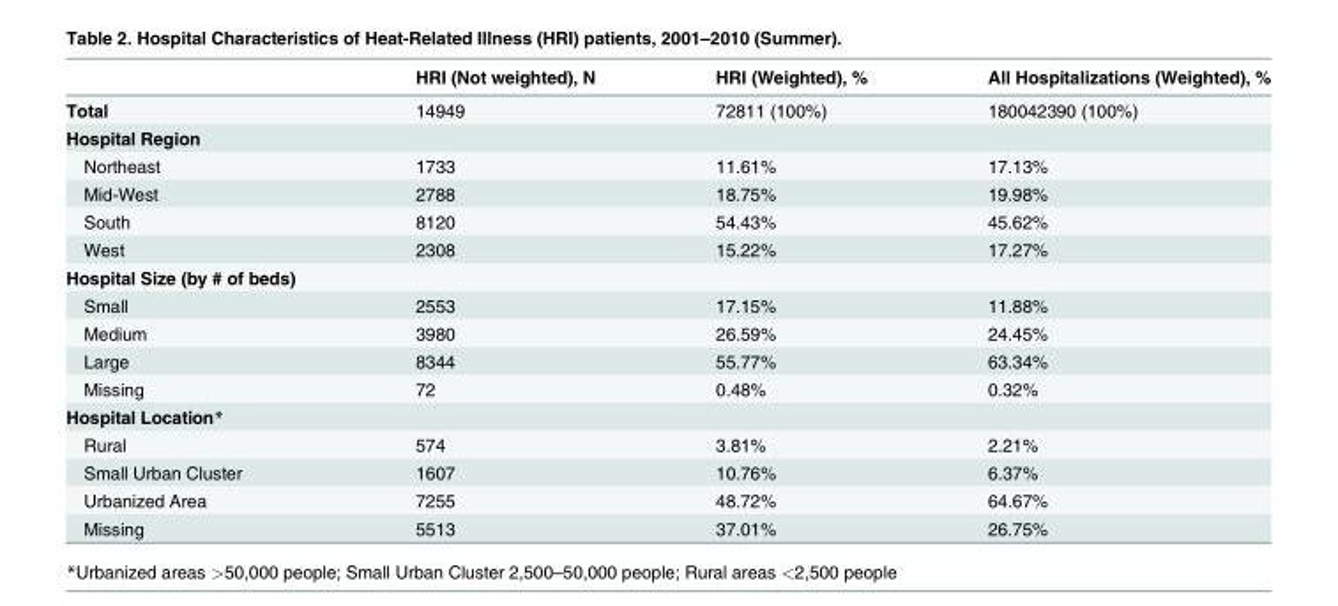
<table><thead><tr><td></td><td>HRI (Not weighted), N</td><td>HRI (Weighted), %</td><td>All Hospitalizations (Weighted), %</td></tr></thead><tbody><tr><td>Total</td><td>14949</td><td>72811 (100%)</td><td>180042390 (100%)</td></tr><tr><td colspan="4">Hospital Region</td></tr><tr><td>Northeast</td><td>1733</td><td>11.61%</td><td>17.13%</td></tr><tr><td>Mid-West</td><td>2788</td><td>18.75%</td><td>19.98%</td></tr><tr><td>South</td><td>8120</td><td>54.43%</td><td>45.62%</td></tr><tr><td>West</td><td>2308</td><td>15.22%</td><td>17.27%</td></tr><tr><td colspan="4">Hospital Size (by # of beds)</td></tr><tr><td>Small</td><td>2553</td><td>17.15%</td><td>11.88%</td></tr><tr><td>Medium</td><td>3980</td><td>26.59%</td><td>24.45%</td></tr><tr><td>Large</td><td>8344</td><td>55.77%</td><td>63.34%</td></tr><tr><td>Missing</td><td>72</td><td>0.48%</td><td>0.32%</td></tr><tr><td colspan="4">Hospital Location*</td></tr><tr><td>Rural</td><td>574</td><td>3.81%</td><td>2.21%</td></tr><tr><td>Small Urban Cluster</td><td>1607</td><td>10.76%</td><td>6.37%</td></tr><tr><td>Urbanized Area</td><td>7255</td><td>48.72%</td><td>64.67%</td></tr><tr><td>Missing</td><td>5513</td><td>37.01%</td><td>26.75%</td></tr></tbody></table>